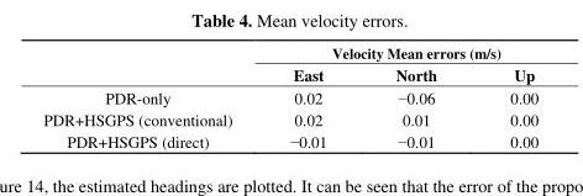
<table><thead><tr><td rowspan="2"></td><td colspan="3">Velocity Mean errors (m/s)</td></tr><tr><td>East</td><td>North</td><td>Up</td></tr></thead><tbody><tr><td>PDR-only</td><td>0.02</td><td>−0.06</td><td>0.00</td></tr><tr><td>PDR+HSGPS (conventional)</td><td>0.02</td><td>0.01</td><td>0.00</td></tr><tr><td>PDR+HSGPS (direct)</td><td>−0.01</td><td>−0.01</td><td>0.00</td></tr></tbody></table>